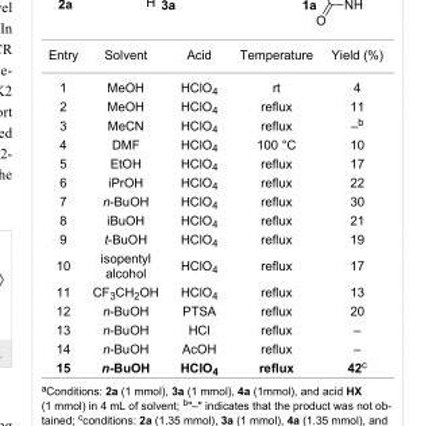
<table><tbody><tr><td>Entry</td><td>Solvent</td><td>Acid</td><td>Temperature</td><td>Yield (%)</td></tr><tr><td>1</td><td>MeOH</td><td>HClO<sub>4</sub></td><td>rt</td><td>4</td></tr><tr><td>2</td><td>MeOH</td><td>HClO<sub>4</sub></td><td>reflux</td><td>11</td></tr><tr><td>3</td><td>MeCN</td><td>HClO<sub>4</sub></td><td>reflux</td><td>–<sup>b</sup></td></tr><tr><td>4</td><td>DMF</td><td>HClO<sub>4</sub></td><td>100 °C</td><td>10</td></tr><tr><td>5</td><td>EtOH</td><td>HClO<sub>4</sub></td><td>reflux</td><td>17</td></tr><tr><td>6</td><td>iPrOH</td><td>HClO<sub>4</sub></td><td>reflux</td><td>22</td></tr><tr><td>7</td><td>n-BuOH</td><td>HClO<sub>4</sub></td><td>reflux</td><td>30</td></tr><tr><td>8</td><td>iBuOH</td><td>HClO<sub>4</sub></td><td>reflux</td><td>21</td></tr><tr><td>9</td><td>t-BuOH</td><td>HClO<sub>4</sub></td><td>reflux</td><td>19</td></tr><tr><td>10</td><td>isopentyl alcohol</td><td>HClO<sub>4</sub></td><td>reflux</td><td>17</td></tr><tr><td>11</td><td>CF<sub>3</sub>CH<sub>2</sub>OH</td><td>HClO<sub>4</sub></td><td>reflux</td><td>13</td></tr><tr><td>12</td><td>n-BuOH</td><td>PTSA</td><td>reflux</td><td>20</td></tr><tr><td>13</td><td>n-BuOH</td><td>HCl</td><td>reflux</td><td>–</td></tr><tr><td>14</td><td>n-BuOH</td><td>AcOH</td><td>reflux</td><td>–</td></tr><tr><td>15</td><td>n-BuOH</td><td>HClO<sub>4</sub></td><td>reflux</td><td>42<sup>c</sup></td></tr></tbody></table>